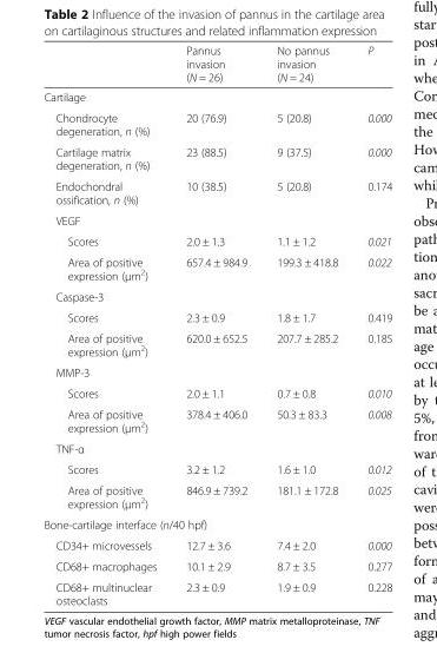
<table><thead><tr><td></td><td>Pannus invasion (N = 26)</td><td>No pannus invasion (N = 24)</td><td>P</td></tr></thead><tbody><tr><td colspan="4">Cartilage</td></tr><tr><td>Chondrocyte degeneration, n (%)</td><td>20 (76.9)</td><td>5 (20.8)</td><td>0.000</td></tr><tr><td>Cartilage matrix degeneration, n (%)</td><td>23 (88.5)</td><td>9 (37.5)</td><td>0.000</td></tr><tr><td>Endochondral ossification, n (%)</td><td>10 (38.5)</td><td>5 (20.8)</td><td>0.174</td></tr><tr><td colspan="4">VEGF</td></tr><tr><td>Scores</td><td>2.0 ± 1.3</td><td>1.1 ± 1.2</td><td>0.021</td></tr><tr><td>Area of positive expression (μm<sup>2</sup>)</td><td>657.4 ± 984.9</td><td>199.3 ± 418.8</td><td>0.022</td></tr><tr><td colspan="4">Caspase-3</td></tr><tr><td>Scores</td><td>2.3 ± 0.9</td><td>1.8 ± 1.7</td><td>0.419</td></tr><tr><td>Area of positive expression (μm<sup>2</sup>)</td><td>620.0 ± 652.5</td><td>207.7 ± 285.2</td><td>0.185</td></tr><tr><td colspan="4">MMP-3</td></tr><tr><td>Scores</td><td>2.0 ± 1.1</td><td>0.7 ± 0.8</td><td>0.010</td></tr><tr><td>Area of positive expression (μm<sup>2</sup>)</td><td>378.4 ± 406.0</td><td>50.3 ± 83.3</td><td>0.008</td></tr><tr><td colspan="4">TNF-α</td></tr><tr><td>Scores</td><td>3.2 ± 1.2</td><td>1.6 ± 1.0</td><td>0.012</td></tr><tr><td>Area of positive expression (μm<sup>2</sup>)</td><td>846.9 ± 739.2</td><td>181.1 ± 172.8</td><td>0.025</td></tr><tr><td colspan="4">Bone-cartilage interface (n/40 hpf)</td></tr><tr><td>CD34+ microvessels</td><td>12.7 ± 3.6</td><td>7.4 ± 2.0</td><td>0.000</td></tr><tr><td>CD68+ macrophages</td><td>10.1 ± 2.9</td><td>8.7 ± 3.5</td><td>0.277</td></tr><tr><td>CD68+ multinuclear osteoclasts</td><td>2.3 ± 0.9</td><td>1.9 ± 0.9</td><td>0.228</td></tr></tbody></table>